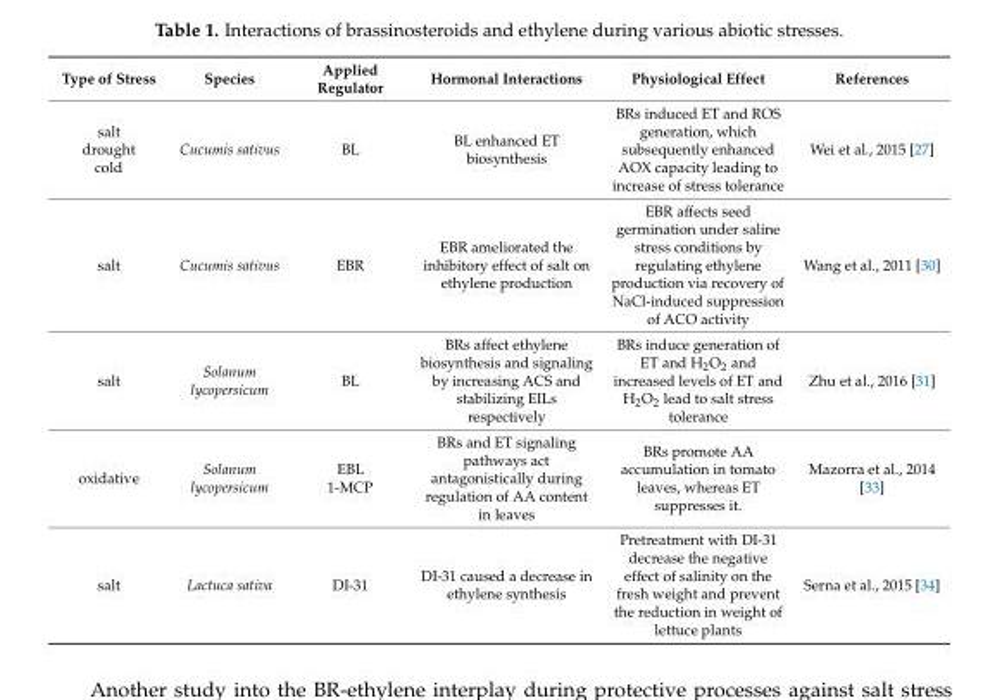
<table><thead><tr><td>Type of Stress</td><td>Species</td><td>Applied Regulator</td><td>Hormonal Interactions</td><td>Physiological Effect</td><td>References</td></tr></thead><tbody><tr><td>salt drought cold</td><td>Cucumis sativus</td><td>BL</td><td>BL enhanced ET biosynthesis</td><td>BRs induced ET and ROS generation, which subsequently enhanced AOX capacity leading to increase of stress tolerance</td><td>Wei et al., 2015 [27]</td></tr><tr><td>salt</td><td>Cucumis sativus</td><td>EBR</td><td>EBR ameliorated the inhibitory effect of salt on ethylene production</td><td>EBR affects seed germination under saline stress conditions by regulating ethylene production via recovery of NaCl-induced suppression of ACO activity</td><td>Wang et al., 2011 [30]</td></tr><tr><td>salt</td><td>Solanum lycopersicum</td><td>BL</td><td>BRs affect ethylene biosynthesis and signaling by increasing ACS and stabilizing EILs respectively</td><td>BRs induce generation of ET and H<sub>2</sub>O<sub>2</sub> and increased levels of ET and H<sub>2</sub>O<sub>2</sub> lead to salt stress tolerance</td><td>Zhu et al., 2016 [31]</td></tr><tr><td>oxidative</td><td>Solanum lycopersicum</td><td>EBL 1-MCP</td><td>BRs and ET signaling pathways act antagonistically during regulation of AA content in leaves</td><td>BRs promote AA accumulation in tomato leaves, whereas ET suppresses it.</td><td>Mazorra et al., 2014 [33]</td></tr><tr><td>salt</td><td>Lactuca sativa</td><td>DI-31</td><td>DI-31 caused a decrease in ethylene synthesis</td><td>Pretreatment with DI-31 decrease the negative effect of salinity on the fresh weight and prevent the reduction in weight of lettuce plants</td><td>Serna et al., 2015 [34]</td></tr></tbody></table>